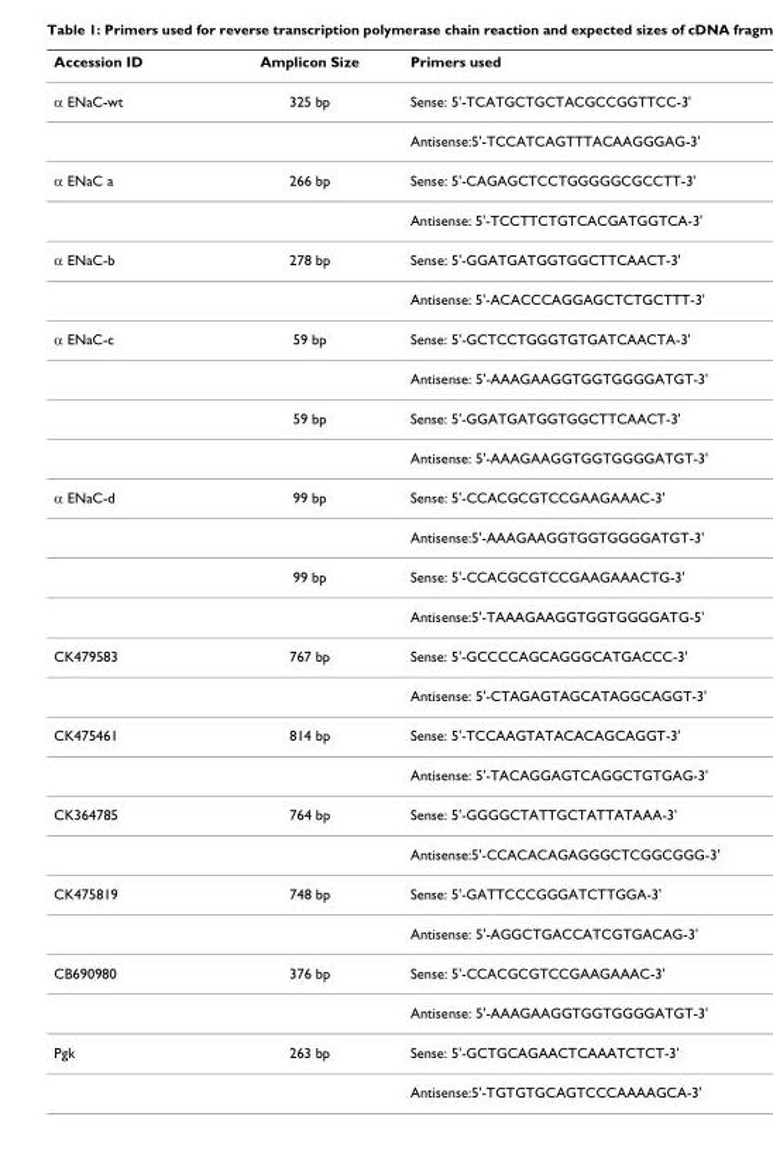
<table><thead><tr><td>Accession ID</td><td>Amplicon Size</td><td>Primers used</td></tr></thead><tbody><tr><td rowspan="2">α ENaC-wt</td><td>325 bp</td><td>Sense: 5&#x27;-TCATGCTGCTACGCCGGTTCC-3&#x27;</td></tr><tr><td></td><td>Antisense:5&#x27;-TCCATCAGTTTACAAGGGAG-3&#x27;</td></tr><tr><td rowspan="2">α ENaC a</td><td>266 bp</td><td>Sense: 5&#x27;-CAGAGCTCCTGGGGGCGCCTT-3&#x27;</td></tr><tr><td></td><td>Antisense: 5&#x27;-TCCTTCTGTCACGATGGTCA-3&#x27;</td></tr><tr><td rowspan="2">α ENaC-b</td><td>278 bp</td><td>Sense: 5&#x27;-GGATGATGGTGGCTTCAACT-3&#x27;</td></tr><tr><td></td><td>Antisense: 5&#x27;-ACACCCAGGAGCTCTGCTTT-3&#x27;</td></tr><tr><td rowspan="4">α ENaC-c</td><td>59 bp</td><td>Sense: 5&#x27;-GCTCCTGGGTGTGATCAACTA-3&#x27;</td></tr><tr><td></td><td>Antisense: 5&#x27;-AAAGAAGGTGGTGGGGATGT-3&#x27;</td></tr><tr><td>59 bp</td><td>Sense: 5&#x27;-GGATGATGGTGGCTTCAACT-3&#x27;</td></tr><tr><td></td><td>Antisense: 5&#x27;-AAAGAAGGTGGTGGGGATGT-3&#x27;</td></tr><tr><td rowspan="4">α ENaC-d</td><td>99 bp</td><td>Sense: 5&#x27;-CCACGCGTCCGAAGAAAC-3&#x27;</td></tr><tr><td></td><td>Antisense:5&#x27;-AAAGAAGGTGGTGGGGATGT-3&#x27;</td></tr><tr><td>99 bp</td><td>Sense: 5&#x27;-CCACGCGTCCGAAGAAACTG-3&#x27;</td></tr><tr><td></td><td>Antisense:5&#x27;-TAAAGAAGGTGGTGGGGATG-5&#x27;</td></tr><tr><td rowspan="2">CK479583</td><td>767 bp</td><td>Sense: 5&#x27;-GCCCCAGCAGGGCATGACCC-3&#x27;</td></tr><tr><td></td><td>Antisense: 5&#x27;-CTAGAGTAGCATAGGCAGGT-3&#x27;</td></tr><tr><td rowspan="2">CK475461</td><td>814 bp</td><td>Sense: 5&#x27;-TCCAAGTATACACAGCAGGT-3&#x27;</td></tr><tr><td></td><td>Antisense: 5&#x27;-TACAGGAGTCAGGCTGTGAG-3&#x27;</td></tr><tr><td rowspan="2">CK364785</td><td>764 bp</td><td>Sense: 5&#x27;-GGGGCTATTGCTATTATAAA-3&#x27;</td></tr><tr><td></td><td>Antisense:5&#x27;-CCACACAGAGGGCTCGGCGGG-3&#x27;</td></tr><tr><td rowspan="2">CK475819</td><td>748 bp</td><td>Sense: 5&#x27;-GATTCCCGGGATCTTGGA-3&#x27;</td></tr><tr><td></td><td>Antisense: 5&#x27;-AGGCTGACCATCGTGACAG-3&#x27;</td></tr><tr><td rowspan="2">CB690980</td><td>376 bp</td><td>Sense: 5&#x27;-CCACGCGTCCGAAGAAAC-3&#x27;</td></tr><tr><td></td><td>Antisense: 5&#x27;-AAAGAAGGTGGTGGGGATGT-3&#x27;</td></tr><tr><td rowspan="2">Pgk</td><td>263 bp</td><td>Sense: 5&#x27;-GCTGCAGAACTCAAATCTCT-3&#x27;</td></tr><tr><td></td><td>Antisense:5&#x27;-TGTGTGCAGTCCCAAAAGCA-3&#x27;</td></tr></tbody></table>